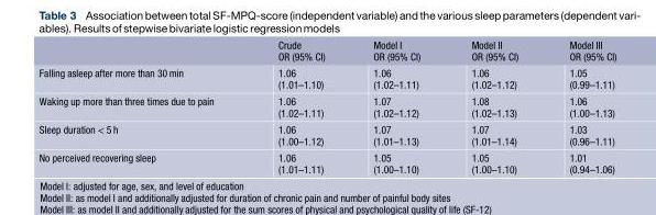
<table><thead><tr><td></td><td>Crude OR (95% CI)</td><td>Model I OR (95% CI)</td><td>Model II OR (95% CI)</td><td>Model III OR (95% CI)</td></tr></thead><tbody><tr><td>Falling asleep after more than 30 min</td><td>1.06 (1.01–1.10)</td><td>1.06 (1.02–1.11)</td><td>1.06 (1.02–1.12)</td><td>1.05 (0.99–1.11)</td></tr><tr><td>Waking up more than three times due to pain</td><td>1.06 (1.02–1.11)</td><td>1.07 (1.02–1.12)</td><td>1.08 (1.02–1.13)</td><td>1.06 (1.00–1.13)</td></tr><tr><td>Sleep duration &lt; 5 h</td><td>1.06 (1.00–1.12)</td><td>1.07 (1.01–1.13)</td><td>1.07 (1.01–1.14)</td><td>1.03 (0.96–1.11)</td></tr><tr><td>No perceived recovering sleep</td><td>1.06 (1.01–1.11)</td><td>1.05 (1.00–1.10)</td><td>1.05 (1.00–1.10)</td><td>1.01 (0.94–1.06)</td></tr></tbody></table>